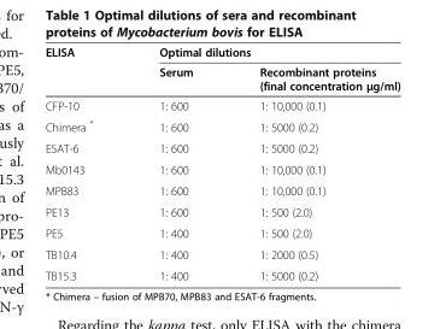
<table><thead><tr><td rowspan="2">ELISA</td><td colspan="2">Optimal dilutions</td></tr><tr><td>Serum</td><td>Recombinant proteins (final concentration μg/ml)</td></tr></thead><tbody><tr><td>CFP-10</td><td>1: 600</td><td>1: 10,000 (0.1)</td></tr><tr><td>Chimera *</td><td>1: 600</td><td>1: 5000 (0.2)</td></tr><tr><td>ESAT-6</td><td>1: 600</td><td>1: 5000 (0.2)</td></tr><tr><td>Mb0143</td><td>1: 600</td><td>1: 10,000 (0.1)</td></tr><tr><td>MPB83</td><td>1: 600</td><td>1: 10,000 (0.1)</td></tr><tr><td>PE13</td><td>1: 600</td><td>1: 500 (2.0)</td></tr><tr><td>PE5</td><td>1: 400</td><td>1: 500 (2.0)</td></tr><tr><td>TB10.4</td><td>1: 400</td><td>1: 2000 (0.5)</td></tr><tr><td>TB15.3</td><td>1: 400</td><td>1: 5000 (0.2)</td></tr></tbody></table>